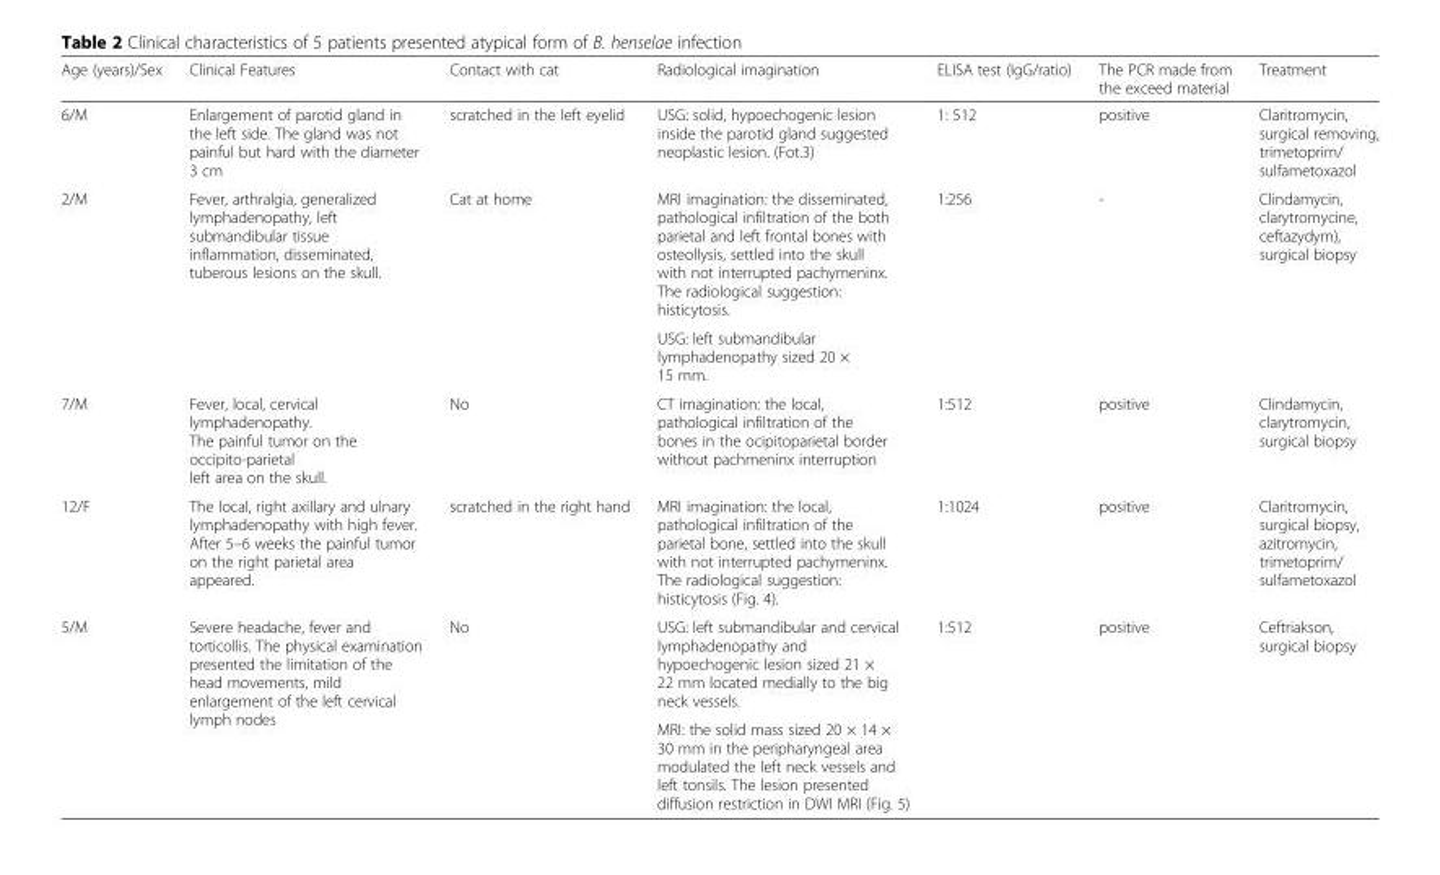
<table><thead><tr><td>Age (years)/Sex</td><td>Clinical Features</td><td>Contact with cat</td><td>Radiological imagination</td><td>ELISA test (IgG/ratio)</td><td>The PCR made from the exceed material</td><td>Treatment</td></tr></thead><tbody><tr><td>6/M</td><td>Enlargement of parotid gland in the left side. The gland was not painful but hard with the diameter 3 cm</td><td>scratched in the left eyelid</td><td>USG: solid, hypoechogenic lesion inside the parotid gland suggested neoplastic lesion. (Fot.3)</td><td>1: 512</td><td>positive</td><td>Claritromycin, surgical removing, trimetoprim/ sulfametoxazol</td></tr><tr><td rowspan="2">2/M</td><td rowspan="2">Fever, arthralgia, generalized lymphadenopathy, left submandibular tissue inflammation, disseminated, tuberous lesions on the skull.</td><td rowspan="2">Cat at home</td><td>MRI imagination: the disseminated, pathological infiltration of the both parietal and left frontal bones with osteollysis, settled into the skull with not interrupted pachymeninx. The radiological suggestion: histicytosis.</td><td rowspan="2">1:256</td><td rowspan="2">-</td><td rowspan="2">Clindamycin, clarytromycine, ceftazydym), surgical biopsy</td></tr><tr><td>USG: left submandibular lymphadenopathy sized 20 × 15 mm.</td></tr><tr><td>7/M</td><td>Fever, local, cervical lymphadenopathy. The painful tumor on the occipito-parietal left area on the skull.</td><td>No</td><td>CT imagination: the local, pathological infiltration of the bones in the ocipitoparietal border without pachmeninx interruption</td><td>1:512</td><td>positive</td><td>Clindamycin, clarytromycin, surgical biopsy</td></tr><tr><td>12/F</td><td>The local, right axillary and ulnary lymphadenopathy with high fever. After 5–6 weeks the painful tumor on the right parietal area appeared.</td><td>scratched in the right hand</td><td>MRI imagination: the local, pathological infiltration of the parietal bone, settled into the skull with not interrupted pachymeninx. The radiological suggestion: histicytosis (Fig. 4).</td><td>1:1024</td><td>positive</td><td>Claritromycin, surgical biopsy, azitromycin, trimetoprim/ sulfametoxazol</td></tr><tr><td rowspan="2">5/M</td><td rowspan="2">Severe headache, fever and torticollis. The physical examination presented the limitation of the head movements, mild enlargement of the left cervical lymph nodes</td><td rowspan="2">No</td><td>USG: left submandibular and cervical lymphadenopathy and hypoechogenic lesion sized 21 × 22 mm located medially to the big neck vessels.</td><td rowspan="2">1:512</td><td rowspan="2">positive</td><td rowspan="2">Ceftriakson, surgical biopsy</td></tr><tr><td>MRI: the solid mass sized 20 × 14 × 30 mm in the peripharyngeal area modulated the left neck vessels and left tonsils. The lesion presented diffusion restriction in DWI MRI (Fig. 5)</td></tr></tbody></table>